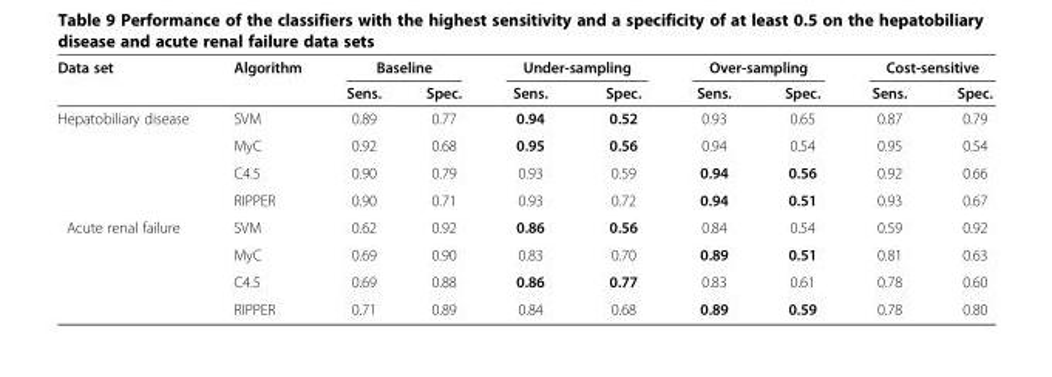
<table><thead><tr><td rowspan="2">Data set</td><td rowspan="2">Algorithm</td><td colspan="2">Baseline</td><td colspan="2">Under-sampling</td><td colspan="2">Over-sampling</td><td colspan="2">Cost-sensitive</td></tr><tr><td>Sens.</td><td>Spec.</td><td>Sens.</td><td>Spec.</td><td>Sens.</td><td>Spec.</td><td>Sens.</td><td>Spec.</td></tr></thead><tbody><tr><td rowspan="4">Hepatobiliary disease</td><td>SVM</td><td>0.89</td><td>0.77</td><td>0.94</td><td>0.52</td><td>0.93</td><td>0.65</td><td>0.87</td><td>0.79</td></tr><tr><td>MyC</td><td>0.92</td><td>0.68</td><td>0.95</td><td>0.56</td><td>0.94</td><td>0.54</td><td>0.95</td><td>0.54</td></tr><tr><td>C4.5</td><td>0.90</td><td>0.79</td><td>0.93</td><td>0.59</td><td>0.94</td><td>0.56</td><td>0.92</td><td>0.66</td></tr><tr><td>RIPPER</td><td>0.90</td><td>0.71</td><td>0.93</td><td>0.72</td><td>0.94</td><td>0.51</td><td>0.93</td><td>0.67</td></tr><tr><td rowspan="4">Acute renal failure</td><td>SVM</td><td>0.62</td><td>0.92</td><td>0.86</td><td>0.56</td><td>0.84</td><td>0.54</td><td>0.59</td><td>0.92</td></tr><tr><td>MyC</td><td>0.69</td><td>0.90</td><td>0.83</td><td>0.70</td><td>0.89</td><td>0.51</td><td>0.81</td><td>0.63</td></tr><tr><td>C4.5</td><td>0.69</td><td>0.88</td><td>0.86</td><td>0.77</td><td>0.83</td><td>0.61</td><td>0.78</td><td>0.60</td></tr><tr><td>RIPPER</td><td>0.71</td><td>0.89</td><td>0.84</td><td>0.68</td><td>0.89</td><td>0.59</td><td>0.78</td><td>0.80</td></tr></tbody></table>